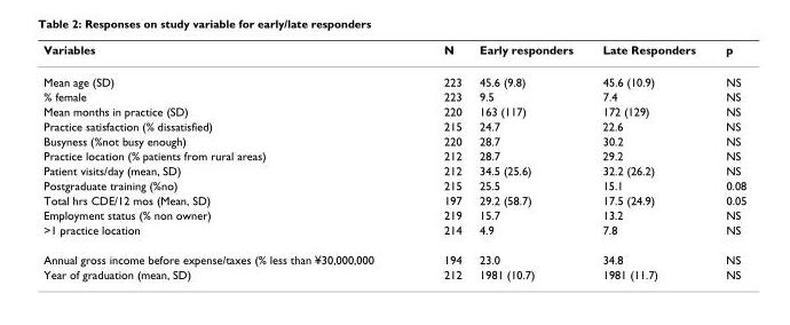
<table><thead><tr><td>Variables</td><td>N</td><td>Early responders</td><td>Late Responders</td><td>p</td></tr></thead><tbody><tr><td>Mean age (SD)</td><td>223</td><td>45.6 (9.8)</td><td>45.6 (10.9)</td><td>NS</td></tr><tr><td>% female</td><td>223</td><td>9.5</td><td>7.4</td><td>NS</td></tr><tr><td>Mean months in practice (SD)</td><td>220</td><td>163 (117)</td><td>172 (129)</td><td>NS</td></tr><tr><td>Practice satisfaction (% dissatisfied)</td><td>215</td><td>24.7</td><td>22.6</td><td>NS</td></tr><tr><td>Busyness (%not busy enough)</td><td>220</td><td>28.7</td><td>30.2</td><td>NS</td></tr><tr><td>Practice location (% patients from rural areas)</td><td>212</td><td>28.7</td><td>29.2</td><td>NS</td></tr><tr><td>Patient visits/day (mean, SD)</td><td>212</td><td>34.5 (25.6)</td><td>32.2 (26.2)</td><td>NS</td></tr><tr><td>Postgraduate training (%no)</td><td>215</td><td>25.5</td><td>15.1</td><td>0.08</td></tr><tr><td>Total hrs CDE/12 mos (Mean, SD)</td><td>197</td><td>29.2 (58.7)</td><td>17.5 (24.9)</td><td>0.05</td></tr><tr><td>Employment status (% non owner)</td><td>219</td><td>15.7</td><td>13.2</td><td>NS</td></tr><tr><td>&gt;1 practice location</td><td>214</td><td>4.9</td><td>7.8</td><td>NS</td></tr><tr><td>Annual gross income before expense/taxes (% less than ¥30,000,000</td><td>194</td><td>23.0</td><td>34.8</td><td>NS</td></tr><tr><td>Year of graduation (mean, SD)</td><td>212</td><td>1981 (10.7)</td><td>1981 (11.7)</td><td>NS</td></tr></tbody></table>